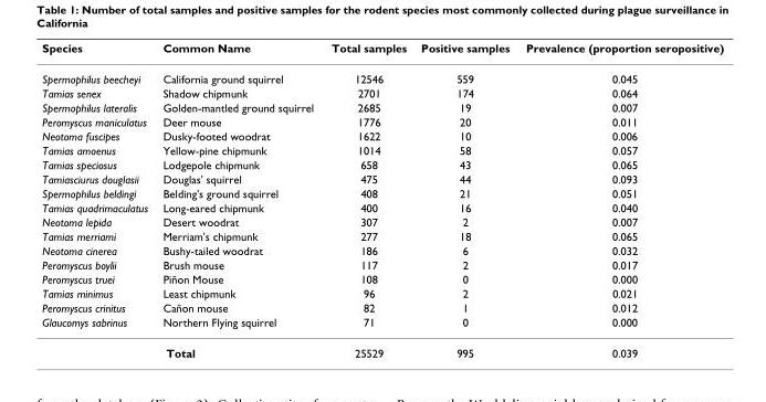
<table><thead><tr><td>Species</td><td>Common Name</td><td>Total samples</td><td>Positive samples</td><td>Prevalence (proportion seropositive)</td></tr></thead><tbody><tr><td>Spermophilus beecheyi</td><td>California ground squirrel</td><td>12546</td><td>559</td><td>0.045</td></tr><tr><td>Tamias senex</td><td>Shadow chipmunk</td><td>2701</td><td>174</td><td>0.064</td></tr><tr><td>Spermophilus lateralis</td><td>Golden-mantled ground squirrel</td><td>2685</td><td>19</td><td>0.007</td></tr><tr><td>Peromyscus maniculatus</td><td>Deer mouse</td><td>1776</td><td>20</td><td>0.011</td></tr><tr><td>Neotoma fuscipes</td><td>Dusky-footed woodrat</td><td>1622</td><td>10</td><td>0.006</td></tr><tr><td>Tamias amoenus</td><td>Yellow-pine chipmunk</td><td>1014</td><td>58</td><td>0.057</td></tr><tr><td>Tamias speciosus</td><td>Lodgepole chipmunk</td><td>658</td><td>43</td><td>0.065</td></tr><tr><td>Tamiasciurus douglasii</td><td>Douglas&#x27; squirrel</td><td>475</td><td>44</td><td>0.093</td></tr><tr><td>Spermophilus beldingi</td><td>Belding&#x27;s ground squirrel</td><td>408</td><td>21</td><td>0.051</td></tr><tr><td>Tamias quadrimaculatus</td><td>Long-eared chipmunk</td><td>400</td><td>16</td><td>0.040</td></tr><tr><td>Neotoma lepida</td><td>Desert woodrat</td><td>307</td><td>2</td><td>0.007</td></tr><tr><td>Tamias merriami</td><td>Merriam&#x27;s chipmunk</td><td>277</td><td>18</td><td>0.065</td></tr><tr><td>Neotoma cinerea</td><td>Bushy-tailed woodrat</td><td>186</td><td>6</td><td>0.032</td></tr><tr><td>Peromyscus boylii</td><td>Brush mouse</td><td>117</td><td>2</td><td>0.017</td></tr><tr><td>Peromyscus truei</td><td>Piñon Mouse</td><td>108</td><td>0</td><td>0.000</td></tr><tr><td>Tamias minimus</td><td>Least chipmunk</td><td>96</td><td>2</td><td>0.021</td></tr><tr><td>Peromyscus crinitus</td><td>Cañon mouse</td><td>82</td><td>1</td><td>0.012</td></tr><tr><td>Glaucomys sabrinus</td><td>Northern Flying squirrel</td><td>71</td><td>0</td><td>0.000</td></tr><tr><td colspan="2">Total</td><td>25529</td><td>995</td><td>0.039</td></tr></tbody></table>